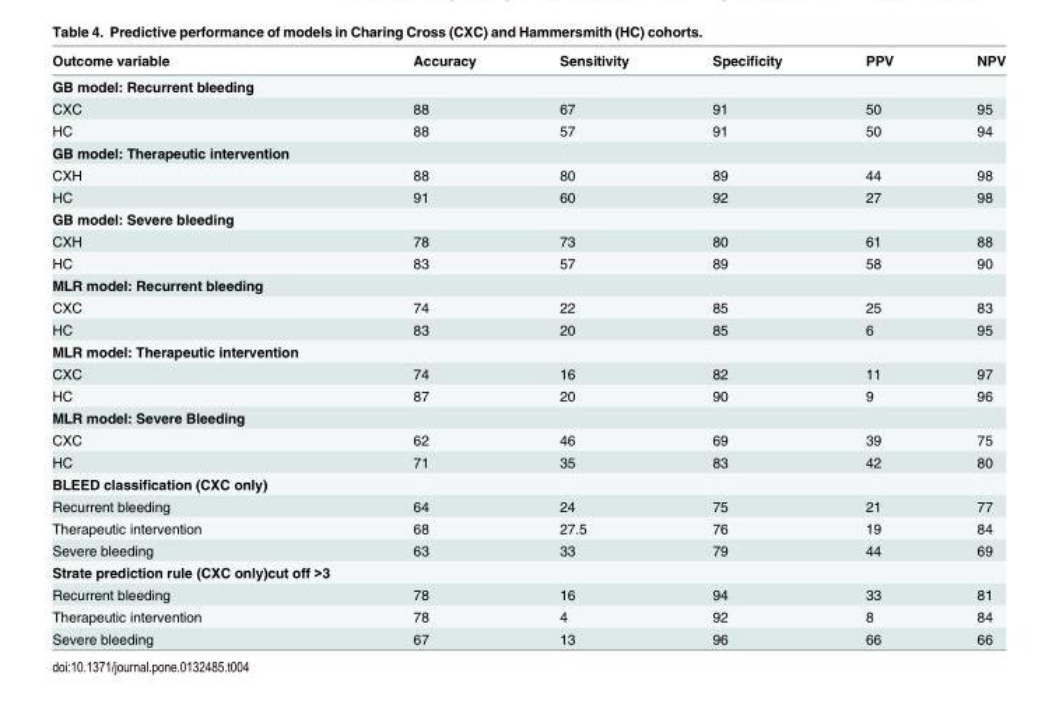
<table><thead><tr><td>Outcome variable</td><td>Accuracy</td><td>Sensitivity</td><td>Specificity</td><td>PPV</td><td>NPV</td></tr></thead><tbody><tr><td colspan="6">GB model: Recurrent bleeding</td></tr><tr><td>CXC</td><td>88</td><td>67</td><td>91</td><td>50</td><td>95</td></tr><tr><td>HC</td><td>88</td><td>57</td><td>91</td><td>50</td><td>94</td></tr><tr><td colspan="6">GB model: Therapeutic intervention</td></tr><tr><td>CXH</td><td>88</td><td>80</td><td>89</td><td>44</td><td>98</td></tr><tr><td>HC</td><td>91</td><td>60</td><td>92</td><td>27</td><td>98</td></tr><tr><td colspan="6">GB model: Severe bleeding</td></tr><tr><td>CXH</td><td>78</td><td>73</td><td>80</td><td>61</td><td>88</td></tr><tr><td>HC</td><td>83</td><td>57</td><td>89</td><td>58</td><td>90</td></tr><tr><td colspan="6">MLR model: Recurrent bleeding</td></tr><tr><td>CXC</td><td>74</td><td>22</td><td>85</td><td>25</td><td>83</td></tr><tr><td>HC</td><td>83</td><td>20</td><td>85</td><td>6</td><td>95</td></tr><tr><td colspan="6">MLR model: Therapeutic intervention</td></tr><tr><td>CXC</td><td>74</td><td>16</td><td>82</td><td>11</td><td>97</td></tr><tr><td>HC</td><td>87</td><td>20</td><td>90</td><td>9</td><td>96</td></tr><tr><td colspan="6">MLR model: Severe Bleeding</td></tr><tr><td>CXC</td><td>62</td><td>46</td><td>69</td><td>39</td><td>75</td></tr><tr><td>HC</td><td>71</td><td>35</td><td>83</td><td>42</td><td>80</td></tr><tr><td colspan="6">BLEED classification (CXC only)</td></tr><tr><td>Recurrent bleeding</td><td>64</td><td>24</td><td>75</td><td>21</td><td>77</td></tr><tr><td>Therapeutic intervention</td><td>68</td><td>27.5</td><td>76</td><td>19</td><td>84</td></tr><tr><td>Severe bleeding</td><td>63</td><td>33</td><td>79</td><td>44</td><td>69</td></tr><tr><td colspan="6">Strate prediction rule (CXC only)cut off &gt;3</td></tr><tr><td>Recurrent bleeding</td><td>78</td><td>16</td><td>94</td><td>33</td><td>81</td></tr><tr><td>Therapeutic intervention</td><td>78</td><td>4</td><td>92</td><td>8</td><td>84</td></tr><tr><td>Severe bleeding</td><td>67</td><td>13</td><td>96</td><td>66</td><td>66</td></tr></tbody></table>